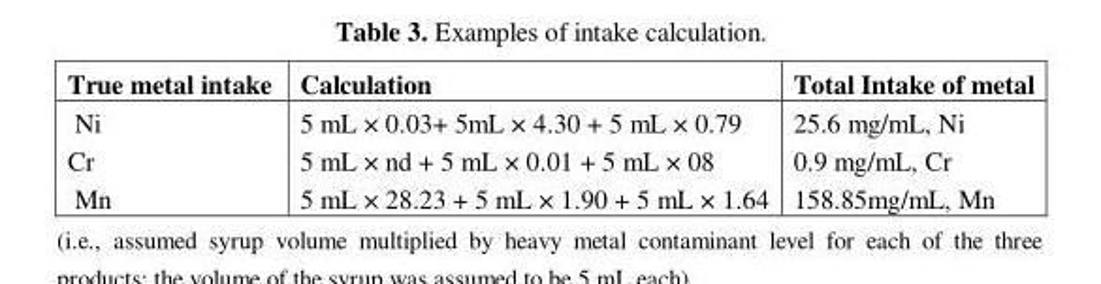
<table><thead><tr><td>True metal intake</td><td>Calculation</td><td>Total Intake of metal</td></tr></thead><tbody><tr><td>Ni</td><td>5 mL × 0.03+ 5mL × 4.30 + 5 mL × 0.79</td><td>25.6 mg/mL, Ni</td></tr><tr><td>Cr</td><td>5 mL × nd + 5 mL × 0.01 + 5 mL × 08</td><td>0.9 mg/mL, Cr</td></tr><tr><td>Mn</td><td>5 mL × 28.23 + 5 mL × 1.90 + 5 mL × 1.64</td><td>158.85mg/mL, Mn</td></tr></tbody></table>